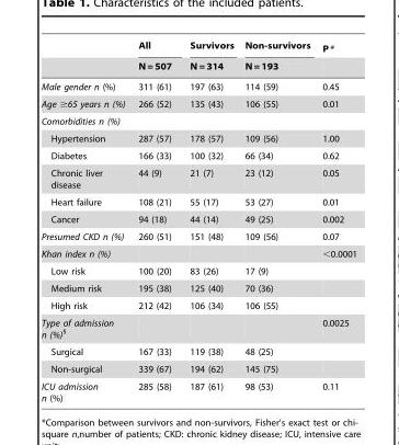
<table><thead><tr><td rowspan="2"></td><td rowspan="2">All N = 507</td><td rowspan="2">Survivors N = 314</td><td rowspan="2">Non-survivors N = 193</td><td rowspan="2">P*</td></tr><tr></tr></thead><tbody><tr><td>Male gender n (%)</td><td>311 (61)</td><td>197 (63)</td><td>114 (59)</td><td>0.45</td></tr><tr><td>Age ≥65 years n (%)</td><td>266 (52)</td><td>135 (43)</td><td>106 (55)</td><td>0.01</td></tr><tr><td colspan="5">Comorbidities n (%)</td></tr><tr><td>Hypertension</td><td>287 (57)</td><td>178 (57)</td><td>109 (56)</td><td>1.00</td></tr><tr><td>Diabetes</td><td>166 (33)</td><td>100 (32)</td><td>66 (34)</td><td>0.62</td></tr><tr><td>Chronic liver disease</td><td>44 (9)</td><td>21 (7)</td><td>23 (12)</td><td>0.05</td></tr><tr><td>Heart failure</td><td>108 (21)</td><td>55 (17)</td><td>53 (27)</td><td>0.01</td></tr><tr><td>Cancer</td><td>94 (18)</td><td>44 (14)</td><td>49 (25)</td><td>0.002</td></tr><tr><td>Presumed CKD n (%)</td><td>260 (51)</td><td>151 (48)</td><td>109 (56)</td><td>0.07</td></tr><tr><td>Khan index n (%)</td><td></td><td></td><td></td><td>&lt;0.0001</td></tr><tr><td>Low risk</td><td>100 (20)</td><td>83 (26)</td><td>17 (9)</td><td></td></tr><tr><td>Medium risk</td><td>195 (38)</td><td>125 (40)</td><td>70 (36)</td><td></td></tr><tr><td>High risk</td><td>212 (42)</td><td>106 (34)</td><td>106 (55)</td><td></td></tr><tr><td>Type of admission n (%)§</td><td></td><td></td><td></td><td>0.0025</td></tr><tr><td>Surgical</td><td>167 (33)</td><td>119 (38)</td><td>48 (25)</td><td></td></tr><tr><td>Non-surgical</td><td>339 (67)</td><td>194 (62)</td><td>145 (75)</td><td></td></tr><tr><td>ICU admission n (%) <sup>□</sup></td><td>285 (58)</td><td>187 (61)</td><td>98 (53)</td><td>0.11</td></tr></tbody></table>